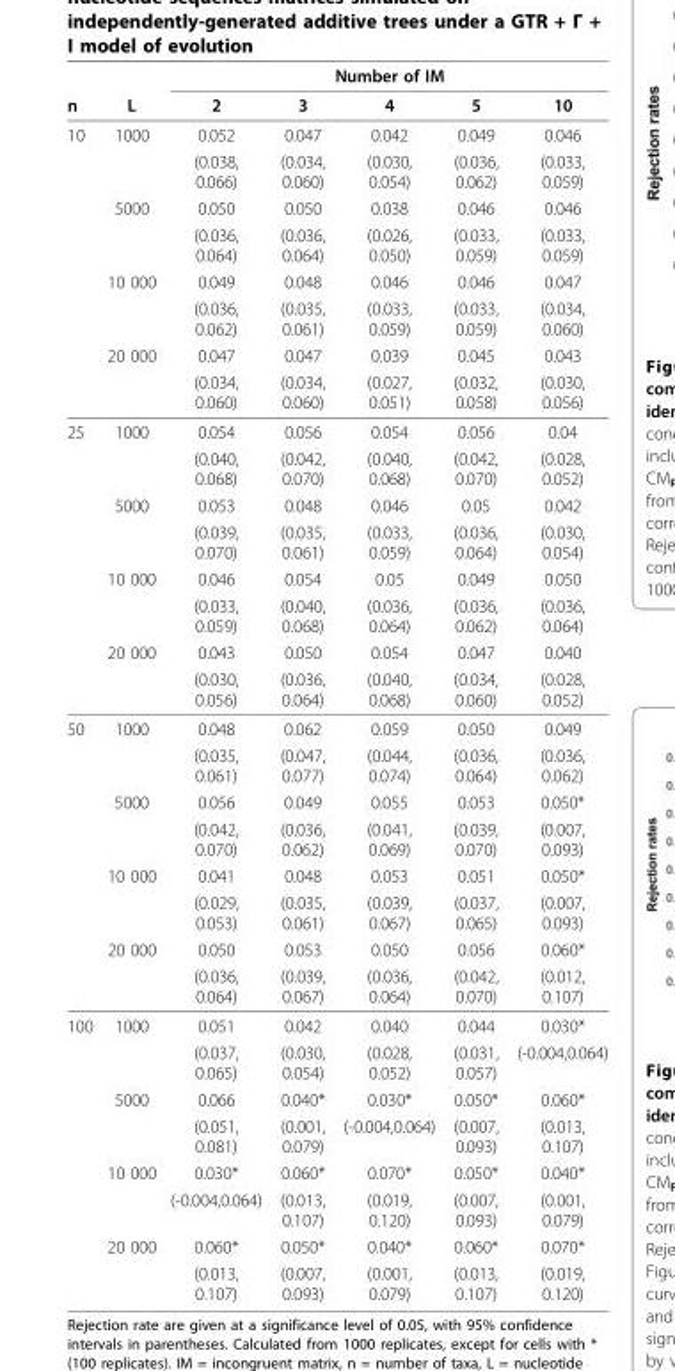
<table><thead><tr><td rowspan="2">n</td><td rowspan="2">L</td><td colspan="5">Number of IM</td></tr><tr><td>2</td><td>3</td><td>4</td><td>5</td><td>10</td></tr></thead><tbody><tr><td rowspan="8">10</td><td>1000</td><td>0.052</td><td>0.047</td><td>0.042</td><td>0.049</td><td>0.046</td></tr><tr><td></td><td>(0.038, 0.066)</td><td>(0.034, 0.060)</td><td>(0.030, 0.054)</td><td>(0.036, 0.062)</td><td>(0.033, 0.059)</td></tr><tr><td>5000</td><td>0.050</td><td>0.050</td><td>0.038</td><td>0.046</td><td>0.046</td></tr><tr><td></td><td>(0.036, 0.064)</td><td>(0.036, 0.064)</td><td>(0.026, 0.050)</td><td>(0.033, 0.059)</td><td>(0.033, 0.059)</td></tr><tr><td>10 000</td><td>0.049</td><td>0.048</td><td>0.046</td><td>0.046</td><td>0.047</td></tr><tr><td></td><td>(0.036, 0.062)</td><td>(0.035, 0.061)</td><td>(0.033, 0.059)</td><td>(0.033, 0.059)</td><td>(0.034, 0.060)</td></tr><tr><td>20 000</td><td>0.047</td><td>0.047</td><td>0.039</td><td>0.045</td><td>0.043</td></tr><tr><td></td><td>(0.034, 0.060)</td><td>(0.034, 0.060)</td><td>(0.027, 0.051)</td><td>(0.032, 0.058)</td><td>(0.030, 0.056)</td></tr><tr><td rowspan="8">25</td><td>1000</td><td>0.054</td><td>0.056</td><td>0.054</td><td>0.056</td><td>0.04</td></tr><tr><td></td><td>(0.040, 0.068)</td><td>(0.042, 0.070)</td><td>(0.040, 0.068)</td><td>(0.042, 0.070)</td><td>(0.028, 0.052)</td></tr><tr><td>5000</td><td>0.053</td><td>0.048</td><td>0.046</td><td>0.05</td><td>0.042</td></tr><tr><td></td><td>(0.039, 0.070)</td><td>(0.035, 0.061)</td><td>(0.033, 0.059)</td><td>(0.036, 0.064)</td><td>(0.030, 0.054)</td></tr><tr><td>10 000</td><td>0.046</td><td>0.054</td><td>0.05</td><td>0.049</td><td>0.050</td></tr><tr><td></td><td>(0.033, 0.059)</td><td>(0.040, 0.068)</td><td>(0.036, 0.064)</td><td>(0.036, 0.062)</td><td>(0.036, 0.064)</td></tr><tr><td>20 000</td><td>0.043</td><td>0.050</td><td>0.054</td><td>0.047</td><td>0.040</td></tr><tr><td></td><td>(0.030, 0.056)</td><td>(0.036, 0.064)</td><td>(0.040, 0.068)</td><td>(0.034, 0.060)</td><td>(0.028, 0.052)</td></tr><tr><td rowspan="8">50</td><td>1000</td><td>0.048</td><td>0.062</td><td>0.059</td><td>0.050</td><td>0.049</td></tr><tr><td></td><td>(0.035, 0.061)</td><td>(0.047, 0.077)</td><td>(0.044, 0.074)</td><td>(0.036, 0.064)</td><td>(0.036, 0.062)</td></tr><tr><td>5000</td><td>0.056</td><td>0.049</td><td>0.055</td><td>0.053</td><td>0.050*</td></tr><tr><td></td><td>(0.042, 0.070)</td><td>(0.036, 0.062)</td><td>(0.041, 0.069)</td><td>(0.039, 0.070)</td><td>(0.007, 0.093)</td></tr><tr><td>10 000</td><td>0.041</td><td>0.048</td><td>0.053</td><td>0.051</td><td>0.050*</td></tr><tr><td></td><td>(0.029, 0.053)</td><td>(0.035, 0.061)</td><td>(0.039, 0.067)</td><td>(0.037, 0.065)</td><td>(0.007, 0.093)</td></tr><tr><td>20 000</td><td>0.050</td><td>0.053</td><td>0.050</td><td>0.056</td><td>0.060*</td></tr><tr><td></td><td>(0.036, 0.064)</td><td>(0.039, 0.067)</td><td>(0.036, 0.064)</td><td>(0.042, 0.070)</td><td>(0.012, 0.107)</td></tr><tr><td rowspan="8">100</td><td>1000</td><td>0.051</td><td>0.042</td><td>0.040</td><td>0.044</td><td>0.030*</td></tr><tr><td></td><td>(0.037, 0.065)</td><td>(0.030, 0.054)</td><td>(0.028, 0.052)</td><td>(0.031, 0.057)</td><td>(-0.004,0.064)</td></tr><tr><td>5000</td><td>0.066</td><td>0.040*</td><td>0.030*</td><td>0.050*</td><td>0.060*</td></tr><tr><td></td><td>(0.051, 0.081)</td><td>(0.001, 0.079)</td><td>(-0.004,0.064)</td><td>(0.007, 0.093)</td><td>(0.013, 0.107)</td></tr><tr><td>10 000</td><td>0.030*</td><td>0.060*</td><td>0.070*</td><td>0.050*</td><td>0.040*</td></tr><tr><td></td><td>(-0.004,0.064)</td><td>(0.013, 0.107)</td><td>(0.019, 0.120)</td><td>(0.007, 0.093)</td><td>(0.001, 0.079)</td></tr><tr><td>20 000</td><td>0.060*</td><td>0.050*</td><td>0.040*</td><td>0.060*</td><td>0.070*</td></tr><tr><td></td><td>(0.013, 0.107)</td><td>(0.007, 0.093)</td><td>(0.001, 0.079)</td><td>(0.013, 0.107)</td><td>(0.019, 0.120)</td></tr></tbody></table>